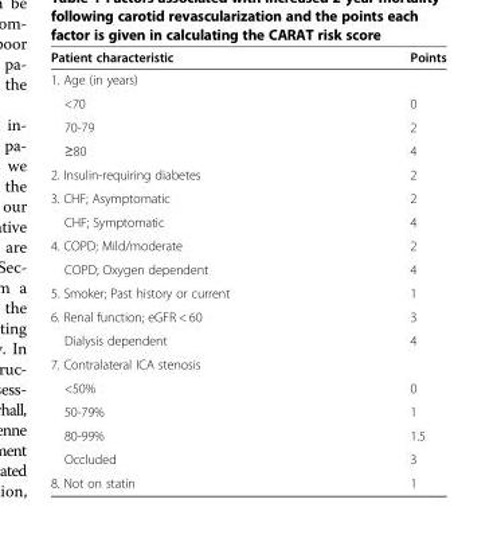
<table><thead><tr><td>Patient characteristic</td><td>Points</td></tr></thead><tbody><tr><td colspan="2">1. Age (in years)</td></tr><tr><td>&lt;70</td><td>0</td></tr><tr><td>70-79</td><td>2</td></tr><tr><td>≥80</td><td>4</td></tr><tr><td>2. Insulin-requiring diabetes</td><td>2</td></tr><tr><td>3. CHF; Asymptomatic</td><td>2</td></tr><tr><td>CHF; Symptomatic</td><td>4</td></tr><tr><td>4. COPD; Mild/moderate</td><td>2</td></tr><tr><td>COPD; Oxygen dependent</td><td>4</td></tr><tr><td>5. Smoker; Past history or current</td><td>1</td></tr><tr><td>6. Renal function; eGFR &lt; 60</td><td>3</td></tr><tr><td>Dialysis dependent</td><td>4</td></tr><tr><td colspan="2">7. Contralateral ICA stenosis</td></tr><tr><td>&lt;50%</td><td>0</td></tr><tr><td>50-79%</td><td>1</td></tr><tr><td>80-99%</td><td>1.5</td></tr><tr><td>Occluded</td><td>3</td></tr><tr><td>8. Not on statin</td><td>1</td></tr></tbody></table>